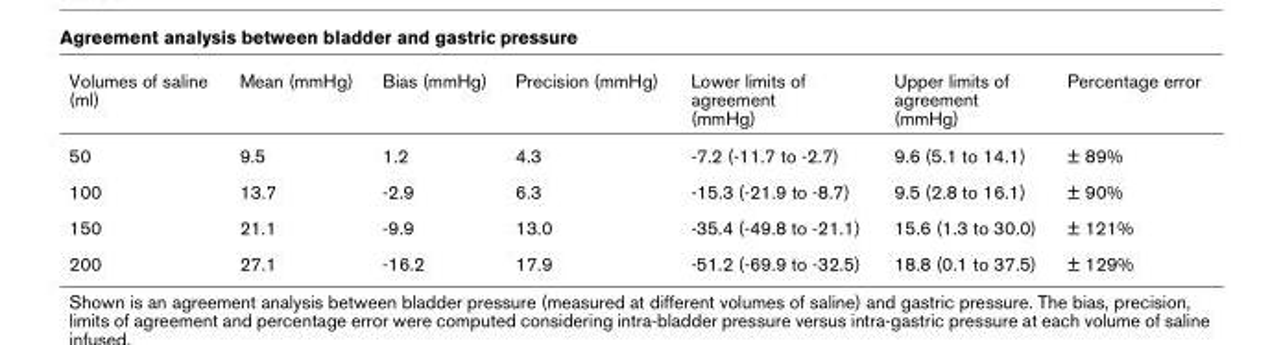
<table><thead><tr><td>Volumes of saline (ml)</td><td>Mean (mmHg)</td><td>Bias (mmHg)</td><td>Precision (mmHg)</td><td>Lower limits of agreement (mmHg)</td><td>Upper limits of agreement (mmHg)</td><td>Percentage error</td></tr></thead><tbody><tr><td>50</td><td>9.5</td><td>1.2</td><td>4.3</td><td>-7.2 (-11.7 to -2.7)</td><td>9.6 (5.1 to 14.1)</td><td>± 89%</td></tr><tr><td>100</td><td>13.7</td><td>-2.9</td><td>6.3</td><td>-15.3 (-21.9 to -8.7)</td><td>9.5 (2.8 to 16.1)</td><td>± 90%</td></tr><tr><td>150</td><td>21.1</td><td>-9.9</td><td>13.0</td><td>-35.4 (-49.8 to -21.1)</td><td>15.6 (1.3 to 30.0)</td><td>± 121%</td></tr><tr><td>200</td><td>27.1</td><td>-16.2</td><td>17.9</td><td>-51.2 (-69.9 to -32.5)</td><td>18.8 (0.1 to 37.5)</td><td>± 129%</td></tr></tbody></table>